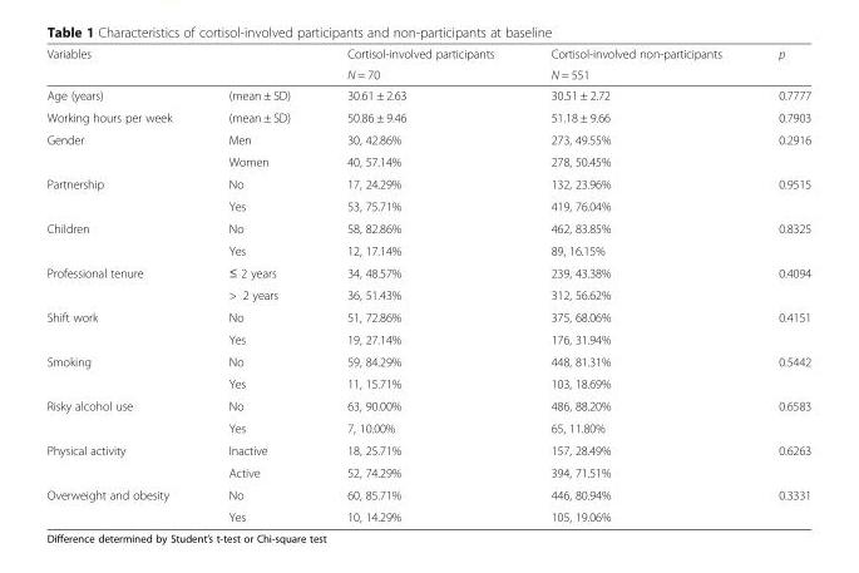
<table><thead><tr><td rowspan="2" colspan="2">Variables</td><td rowspan="3">Cortisol-involved participants N = 70 30.61 ± 2.63</td><td rowspan="3">Cortisol-involved non-participants N = 551 30.51 ± 2.72</td><td rowspan="3">p 0.7777</td></tr><tr></tr><tr><td>Age (years)</td><td>(mean ± SD)</td></tr></thead><tbody><tr><td>Working hours per week</td><td>(mean ± SD)</td><td>50.86 ± 9.46</td><td>51.18 ± 9.66</td><td>0.7903</td></tr><tr><td rowspan="2">Gender</td><td>Men</td><td>30, 42.86%</td><td>273, 49.55%</td><td>0.2916</td></tr><tr><td>Women</td><td>40, 57.14%</td><td>278, 50.45%</td><td></td></tr><tr><td rowspan="2">Partnership</td><td>No</td><td>17, 24.29%</td><td>132, 23.96%</td><td>0.9515</td></tr><tr><td>Yes</td><td>53, 75.71%</td><td>419, 76.04%</td><td></td></tr><tr><td rowspan="2">Children</td><td>No</td><td>58, 82.86%</td><td>462, 83.85%</td><td>0.8325</td></tr><tr><td>Yes</td><td>12, 17.14%</td><td>89, 16.15%</td><td></td></tr><tr><td rowspan="2">Professional tenure</td><td>≤ 2 years</td><td>34, 48.57%</td><td>239, 43.38%</td><td>0.4094</td></tr><tr><td>&gt; 2 years</td><td>36, 51.43%</td><td>312, 56.62%</td><td></td></tr><tr><td rowspan="2">Shift work</td><td>No</td><td>51, 72.86%</td><td>375, 68.06%</td><td>0.4151</td></tr><tr><td>Yes</td><td>19, 27.14%</td><td>176, 31.94%</td><td></td></tr><tr><td rowspan="2">Smoking</td><td>No</td><td>59, 84.29%</td><td>448, 81.31%</td><td>0.5442</td></tr><tr><td>Yes</td><td>11, 15.71%</td><td>103, 18.69%</td><td></td></tr><tr><td rowspan="2">Risky alcohol use</td><td>No</td><td>63, 90.00%</td><td>486, 88.20%</td><td>0.6583</td></tr><tr><td>Yes</td><td>7, 10.00%</td><td>65, 11.80%</td><td></td></tr><tr><td rowspan="2">Physical activity</td><td>Inactive</td><td>18, 25.71%</td><td>157, 28.49%</td><td>0.6263</td></tr><tr><td>Active</td><td>52, 74.29%</td><td>394, 71.51%</td><td></td></tr><tr><td rowspan="2">Overweight and obesity</td><td>No</td><td>60, 85.71%</td><td>446, 80.94%</td><td>0.3331</td></tr><tr><td>Yes</td><td>10, 14.29%</td><td>105, 19.06%</td><td></td></tr></tbody></table>